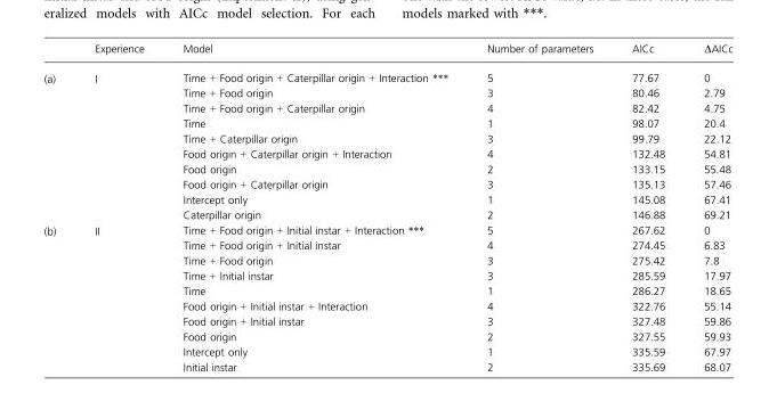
<table><thead><tr><td></td><td>Experience</td><td>Model</td><td>Number of parameters</td><td>AICc</td><td>ΔAICc</td></tr></thead><tbody><tr><td rowspan="10">(a)</td><td>I</td><td>Time + Food origin + Caterpillar origin + Interaction ***</td><td>5</td><td>77.67</td><td>0</td></tr><tr><td></td><td>Time + Food origin</td><td>3</td><td>80.46</td><td>2.79</td></tr><tr><td></td><td>Time + Food origin + Caterpillar origin</td><td>4</td><td>82.42</td><td>4.75</td></tr><tr><td></td><td>Time</td><td>1</td><td>98.07</td><td>20.4</td></tr><tr><td></td><td>Time + Caterpillar origin</td><td>3</td><td>99.79</td><td>22.12</td></tr><tr><td></td><td>Food origin + Caterpillar origin + Interaction</td><td>4</td><td>132.48</td><td>54.81</td></tr><tr><td></td><td>Food origin</td><td>2</td><td>133.15</td><td>55.48</td></tr><tr><td></td><td>Food origin + Caterpillar origin</td><td>3</td><td>135.13</td><td>57.46</td></tr><tr><td></td><td>Intercept only</td><td>1</td><td>145.08</td><td>67.41</td></tr><tr><td></td><td>Caterpillar origin</td><td>2</td><td>146.88</td><td>69.21</td></tr><tr><td rowspan="10">(b)</td><td>II</td><td>Time + Food origin + Initial instar + Interaction ***</td><td>5</td><td>267.62</td><td>0</td></tr><tr><td></td><td>Time + Food origin + Initial instar</td><td>4</td><td>274.45</td><td>6.83</td></tr><tr><td></td><td>Time + Food origin</td><td>3</td><td>275.42</td><td>7.8</td></tr><tr><td></td><td>Time + Initial instar</td><td>3</td><td>285.59</td><td>17.97</td></tr><tr><td></td><td>Time</td><td>1</td><td>286.27</td><td>18.65</td></tr><tr><td></td><td>Food origin + Initial instar + Interaction</td><td>4</td><td>322.76</td><td>55.14</td></tr><tr><td></td><td>Food origin + Initial instar</td><td>3</td><td>327.48</td><td>59.86</td></tr><tr><td></td><td>Food origin</td><td>2</td><td>327.55</td><td>59.93</td></tr><tr><td></td><td>Intercept only</td><td>1</td><td>335.59</td><td>67.97</td></tr><tr><td></td><td>Initial instar</td><td>2</td><td>335.69</td><td>68.07</td></tr></tbody></table>